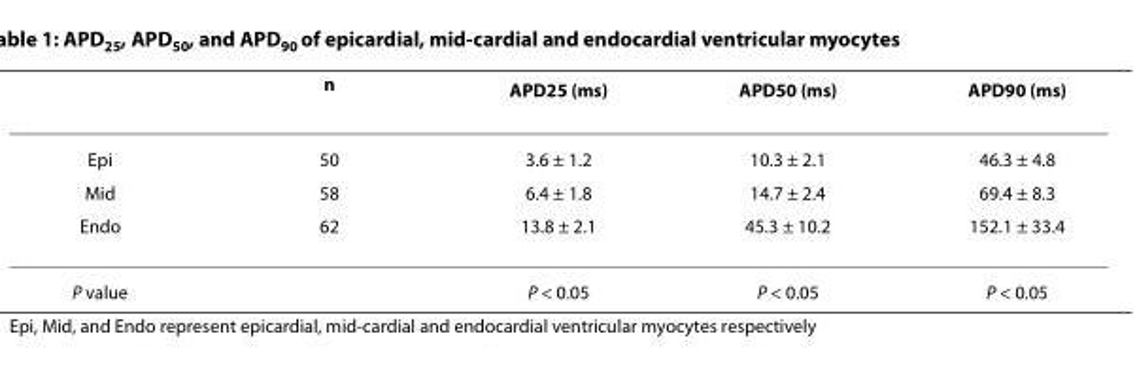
<table><thead><tr><td></td><td>n</td><td>APD<sub>25</sub> (ms)</td><td>APD<sub>50</sub> (ms)</td><td>APD<sub>90</sub> (ms)</td></tr></thead><tbody><tr><td>Epi</td><td>50</td><td>3.6 ± 1.2</td><td>10.3 ± 2.1</td><td>46.3 ± 4.8</td></tr><tr><td>Mid</td><td>58</td><td>6.4 ± 1.8</td><td>14.7 ± 2.4</td><td>69.4 ± 8.3</td></tr><tr><td>Endo</td><td>62</td><td>13.8 ± 2.1</td><td>45.3 ± 10.2</td><td>152.1 ± 33.4</td></tr><tr><td>P value</td><td></td><td>P &lt; 0.05</td><td>P &lt; 0.05</td><td>P &lt; 0.05</td></tr></tbody></table>